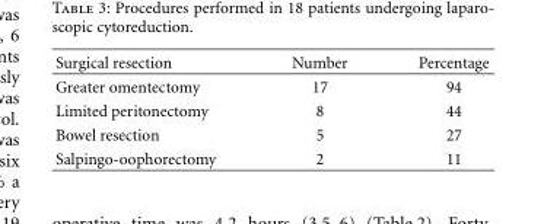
<table><thead><tr><td>Surgical resection</td><td>Number</td><td>Percentage</td></tr></thead><tbody><tr><td>Greater omentectomy</td><td>17</td><td>94</td></tr><tr><td>Limited peritonectomy</td><td>8</td><td>44</td></tr><tr><td>Bowel resection</td><td>5</td><td>27</td></tr><tr><td>Salpingo-oophorectomy</td><td>2</td><td>11</td></tr></tbody></table>